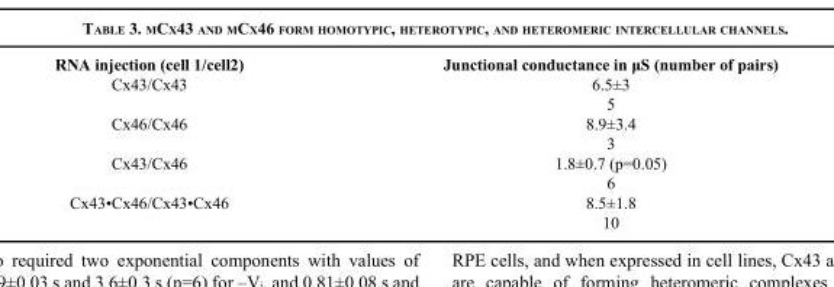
<table><thead><tr><td>RNA injection (cell 1/cell2)</td><td>Junctional conductance in μS (number of pairs)</td></tr></thead><tbody><tr><td rowspan="2">Cx43/Cx43</td><td>6.5±3</td></tr><tr><td>5</td></tr><tr><td rowspan="2">Cx46/Cx46</td><td>8.9±3.4</td></tr><tr><td>3</td></tr><tr><td rowspan="2">Cx43/Cx46</td><td>1.8±0.7 (p=0.05)</td></tr><tr><td>6</td></tr><tr><td rowspan="2">Cx43•Cx46/Cx43•Cx46</td><td>8.5±1.8</td></tr><tr><td>10</td></tr></tbody></table>